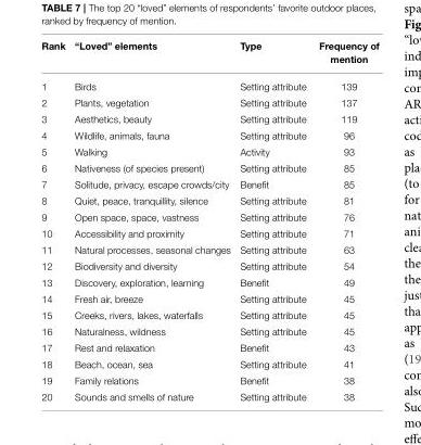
<table><thead><tr><td>Rank</td><td>“Loved” elements</td><td>Type</td><td>Frequency of mention</td></tr></thead><tbody><tr><td>1</td><td>Birds</td><td>Setting attribute</td><td>139</td></tr><tr><td>2</td><td>Plants, vegetation</td><td>Setting attribute</td><td>137</td></tr><tr><td>3</td><td>Aesthetics, beauty</td><td>Setting attribute</td><td>119</td></tr><tr><td>4</td><td>Wildlife, animals, fauna</td><td>Setting attribute</td><td>96</td></tr><tr><td>5</td><td>Walking</td><td>Activity</td><td>93</td></tr><tr><td>6</td><td>Nativeness (of species present)</td><td>Setting attribute</td><td>85</td></tr><tr><td>7</td><td>Solitude, privacy, escape crowds/city</td><td>Benefit</td><td>85</td></tr><tr><td>8</td><td>Quiet, peace, tranquillity, silence</td><td>Setting attribute</td><td>81</td></tr><tr><td>9</td><td>Open space, space, vastness</td><td>Setting attribute</td><td>76</td></tr><tr><td>10</td><td>Accessibility and proximity</td><td>Setting attribute</td><td>71</td></tr><tr><td>11</td><td>Natural processes, seasonal changes</td><td>Setting attribute</td><td>63</td></tr><tr><td>12</td><td>Biodiversity and diversity</td><td>Setting attribute</td><td>54</td></tr><tr><td>13</td><td>Discovery, exploration, learning</td><td>Benefit</td><td>49</td></tr><tr><td>14</td><td>Fresh air, breeze</td><td>Setting attribute</td><td>45</td></tr><tr><td>15</td><td>Creeks, rivers, lakes, waterfalls</td><td>Setting attribute</td><td>45</td></tr><tr><td>16</td><td>Naturalness, wildness</td><td>Setting attribute</td><td>45</td></tr><tr><td>17</td><td>Rest and relaxation</td><td>Benefit</td><td>43</td></tr><tr><td>18</td><td>Beach, ocean, sea</td><td>Setting attribute</td><td>41</td></tr><tr><td>19</td><td>Family relations</td><td>Benefit</td><td>38</td></tr><tr><td>20</td><td>Sounds and smells of nature</td><td>Setting attribute</td><td>38</td></tr></tbody></table>